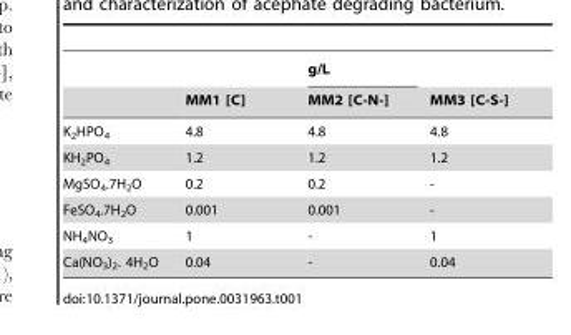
<table><thead><tr><td rowspan="2"></td><td rowspan="2">MM1 [C]</td><td rowspan="2">g/L MM2 [C-N-]</td><td rowspan="2">MM3 [C-S-]</td></tr><tr></tr></thead><tbody><tr><td>K<sub>2</sub>HPO<sub>4</sub></td><td>4.8</td><td>4.8</td><td>4.8</td></tr><tr><td>KH<sub>2</sub>PO<sub>4</sub></td><td>1.2</td><td>1.2</td><td>1.2</td></tr><tr><td>MgSO<sub>4</sub>.7H<sub>2</sub>O</td><td>0.2</td><td>0.2</td><td>-</td></tr><tr><td>FeSO<sub>4</sub>.7H<sub>2</sub>O</td><td>0.001</td><td>0.001</td><td>-</td></tr><tr><td>NH<sub>4</sub>NO<sub>3</sub></td><td>1</td><td>-</td><td>1</td></tr><tr><td>Ca(NO<sub>3</sub>)<sub>2</sub>. 4H<sub>2</sub>O</td><td>0.04</td><td>-</td><td>0.04</td></tr></tbody></table>